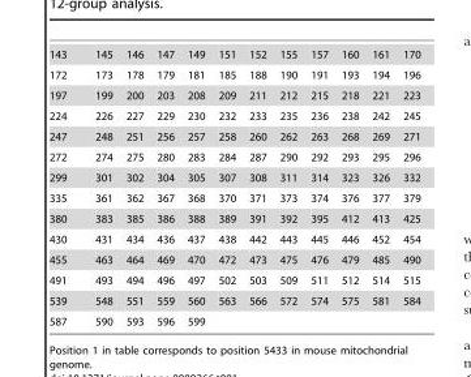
<table><tbody><tr><td>143</td><td>145</td><td>146</td><td>147</td><td>149</td><td>151</td><td>152</td><td>155</td><td>157</td><td>160</td><td>161</td><td>170</td></tr><tr><td>172</td><td>173</td><td>178</td><td>179</td><td>181</td><td>185</td><td>188</td><td>190</td><td>191</td><td>193</td><td>194</td><td>196</td></tr><tr><td>197</td><td>199</td><td>200</td><td>203</td><td>208</td><td>209</td><td>211</td><td>212</td><td>215</td><td>218</td><td>221</td><td>223</td></tr><tr><td>224</td><td>226</td><td>227</td><td>229</td><td>230</td><td>232</td><td>233</td><td>235</td><td>236</td><td>238</td><td>242</td><td>245</td></tr><tr><td>247</td><td>248</td><td>251</td><td>256</td><td>257</td><td>258</td><td>260</td><td>262</td><td>263</td><td>268</td><td>269</td><td>271</td></tr><tr><td>272</td><td>274</td><td>275</td><td>280</td><td>283</td><td>284</td><td>287</td><td>290</td><td>292</td><td>293</td><td>295</td><td>296</td></tr><tr><td>299</td><td>301</td><td>302</td><td>304</td><td>305</td><td>307</td><td>308</td><td>311</td><td>314</td><td>323</td><td>326</td><td>332</td></tr><tr><td>335</td><td>361</td><td>362</td><td>367</td><td>368</td><td>370</td><td>371</td><td>373</td><td>374</td><td>376</td><td>377</td><td>379</td></tr><tr><td>380</td><td>383</td><td>385</td><td>386</td><td>388</td><td>389</td><td>391</td><td>392</td><td>395</td><td>412</td><td>413</td><td>425</td></tr><tr><td>430</td><td>431</td><td>434</td><td>436</td><td>437</td><td>438</td><td>442</td><td>443</td><td>445</td><td>446</td><td>452</td><td>454</td></tr><tr><td>455</td><td>463</td><td>464</td><td>469</td><td>470</td><td>472</td><td>473</td><td>475</td><td>476</td><td>479</td><td>485</td><td>490</td></tr><tr><td>491</td><td>493</td><td>494</td><td>496</td><td>497</td><td>502</td><td>503</td><td>509</td><td>511</td><td>512</td><td>514</td><td>515</td></tr><tr><td>539</td><td>548</td><td>551</td><td>559</td><td>560</td><td>563</td><td>566</td><td>572</td><td>574</td><td>575</td><td>581</td><td>584</td></tr><tr><td>587</td><td>590</td><td>593</td><td>596</td><td>599</td><td></td><td></td><td></td><td></td><td></td><td></td><td></td></tr></tbody></table>